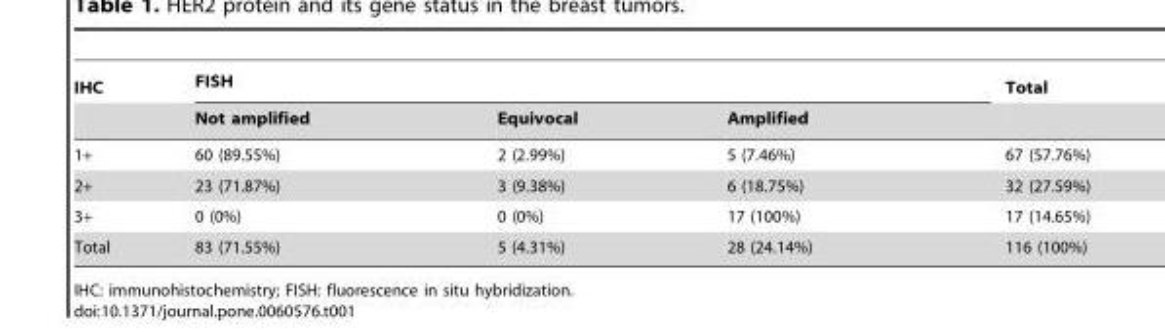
<table><thead><tr><td rowspan="2">IHC</td><td colspan="3">FISH</td><td rowspan="2">Total</td></tr><tr><td>Not amplified</td><td>Equivocal</td><td>Amplified</td></tr></thead><tbody><tr><td>1+</td><td>60 (89.55%)</td><td>2 (2.99%)</td><td>5 (7.46%)</td><td>67 (57.76%)</td></tr><tr><td>2+</td><td>23 (71.87%)</td><td>3 (9.38%)</td><td>6 (18.75%)</td><td>32 (27.59%)</td></tr><tr><td>3+</td><td>0 (0%)</td><td>0 (0%)</td><td>17 (100%)</td><td>17 (14.65%)</td></tr><tr><td>Total</td><td>83 (71.55%)</td><td>5 (4.31%)</td><td>28 (24.14%)</td><td>116 (100%)</td></tr></tbody></table>